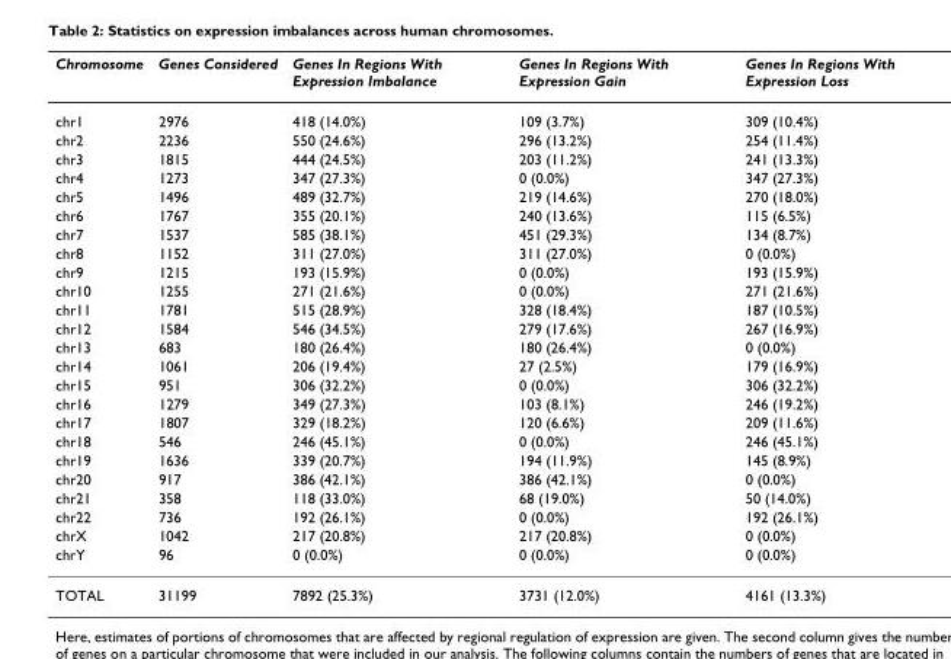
<table><thead><tr><td>Chromosome</td><td>Genes Considered</td><td>Genes In Regions With Expression Imbalance</td><td>Genes In Regions With Expression Gain</td><td>Genes In Regions With Expression Loss</td></tr></thead><tbody><tr><td>chr1</td><td>2976</td><td>418 (14.0%)</td><td>109 (3.7%)</td><td>309 (10.4%)</td></tr><tr><td>chr2</td><td>2236</td><td>550 (24.6%)</td><td>296 (13.2%)</td><td>254 (11.4%)</td></tr><tr><td>chr3</td><td>1815</td><td>444 (24.5%)</td><td>203 (11.2%)</td><td>241 (13.3%)</td></tr><tr><td>chr4</td><td>1273</td><td>347 (27.3%)</td><td>0 (0.0%)</td><td>347 (27.3%)</td></tr><tr><td>chr5</td><td>1496</td><td>489 (32.7%)</td><td>219 (14.6%)</td><td>270 (18.0%)</td></tr><tr><td>chr6</td><td>1767</td><td>355 (20.1%)</td><td>240 (13.6%)</td><td>115 (6.5%)</td></tr><tr><td>chr7</td><td>1537</td><td>585 (38.1%)</td><td>451 (29.3%)</td><td>134 (8.7%)</td></tr><tr><td>chr8</td><td>1152</td><td>311 (27.0%)</td><td>311 (27.0%)</td><td>0 (0.0%)</td></tr><tr><td>chr9</td><td>1215</td><td>193 (15.9%)</td><td>0 (0.0%)</td><td>193 (15.9%)</td></tr><tr><td>chr10</td><td>1255</td><td>271 (21.6%)</td><td>0 (0.0%)</td><td>271 (21.6%)</td></tr><tr><td>chr11</td><td>1781</td><td>515 (28.9%)</td><td>328 (18.4%)</td><td>187 (10.5%)</td></tr><tr><td>chr12</td><td>1584</td><td>546 (34.5%)</td><td>279 (17.6%)</td><td>267 (16.9%)</td></tr><tr><td>chr13</td><td>683</td><td>180 (26.4%)</td><td>180 (26.4%)</td><td>0 (0.0%)</td></tr><tr><td>chr14</td><td>1061</td><td>206 (19.4%)</td><td>27 (2.5%)</td><td>179 (16.9%)</td></tr><tr><td>chr15</td><td>951</td><td>306 (32.2%)</td><td>0 (0.0%)</td><td>306 (32.2%)</td></tr><tr><td>chr16</td><td>1279</td><td>349 (27.3%)</td><td>103 (8.1%)</td><td>246 (19.2%)</td></tr><tr><td>chr17</td><td>1807</td><td>329 (18.2%)</td><td>120 (6.6%)</td><td>209 (11.6%)</td></tr><tr><td>chr18</td><td>546</td><td>246 (45.1%)</td><td>0 (0.0%)</td><td>246 (45.1%)</td></tr><tr><td>chr19</td><td>1636</td><td>339 (20.7%)</td><td>194 (11.9%)</td><td>145 (8.9%)</td></tr><tr><td>chr20</td><td>917</td><td>386 (42.1%)</td><td>386 (42.1%)</td><td>0 (0.0%)</td></tr><tr><td>chr21</td><td>358</td><td>118 (33.0%)</td><td>68 (19.0%)</td><td>50 (14.0%)</td></tr><tr><td>chr22</td><td>736</td><td>192 (26.1%)</td><td>0 (0.0%)</td><td>192 (26.1%)</td></tr><tr><td>chrX</td><td>1042</td><td>217 (20.8%)</td><td>217 (20.8%)</td><td>0 (0.0%)</td></tr><tr><td>chrY</td><td>96</td><td>0 (0.0%)</td><td>0 (0.0%)</td><td>0 (0.0%)</td></tr><tr><td>TOTAL</td><td>31199</td><td>7892 (25.3%)</td><td>3731 (12.0%)</td><td>4161 (13.3%)</td></tr></tbody></table>